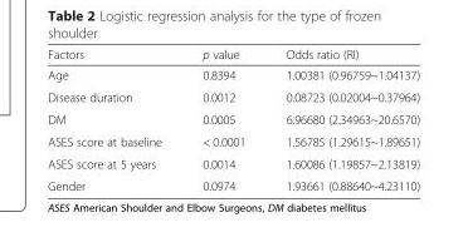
<table><thead><tr><td>Factors</td><td>p value</td><td>Odds ratio (RI)</td></tr></thead><tbody><tr><td>Age</td><td>0.8394</td><td>1.00381 (0.96759~1.04137)</td></tr><tr><td>Disease duration</td><td>0.0012</td><td>0.08723 (0.02004~0.37964)</td></tr><tr><td>DM</td><td>0.0005</td><td>6.96680 (2.34963~20.6570)</td></tr><tr><td>ASES score at baseline</td><td>&lt; 0.0001</td><td>1.56785 (1.29615~1.89651)</td></tr><tr><td>ASES score at 5 years</td><td>0.0014</td><td>1.60086 (1.19857~2.13819)</td></tr><tr><td>Gender</td><td>0.0974</td><td>1.93661 (0.88640~4.23110)</td></tr></tbody></table>